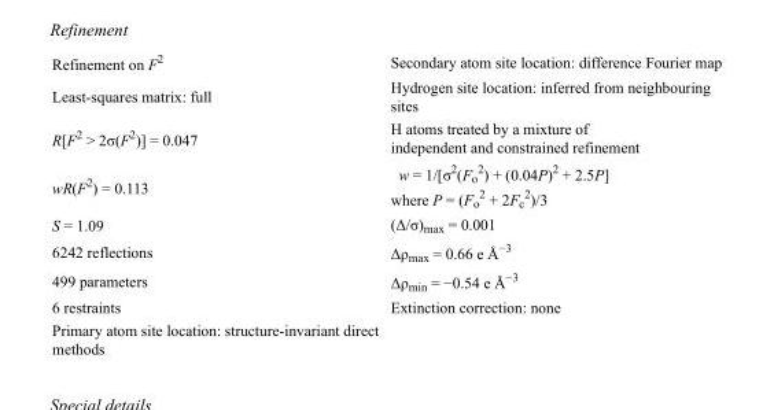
<table><tbody><tr><td>Refinement on F<sup>2</sup></td><td>Secondary atom site location: difference Fourier map</td></tr><tr><td>Least-squares matrix: full</td><td>Hydrogen site location: inferred from neighbouring sites</td></tr><tr><td>R[F<sup>2</sup> &gt; 2σ(F<sup>2</sup>)] = 0.047</td><td>H atoms treated by a mixture of independent and constrained refinement</td></tr><tr><td>wR(F<sup>2</sup>) = 0.113</td><td>w = 1/[σ<sup>2</sup>(F<sub>o</sub> <sup>2</sup>) + (0.04P)<sup>2</sup> + 2.5P] where P = (F<sub>o</sub> <sup>2</sup> + 2F<sub>c</sub> <sup>2</sup>)/3</td></tr><tr><td>S = 1.09</td><td>(Δ/σ)<sub>max</sub> = 0.001</td></tr><tr><td>6242 reflections</td><td>Δρ<sub>max</sub> = 0.66 e Å<sup>−3</sup></td></tr><tr><td>499 parameters</td><td>Δρ<sub>min</sub> = −0.54 e Å<sup>−3</sup></td></tr><tr><td>6 restraints</td><td>Extinction correction: none</td></tr><tr><td>Primary atom site location: structure-invariant direct methods</td><td></td></tr></tbody></table>